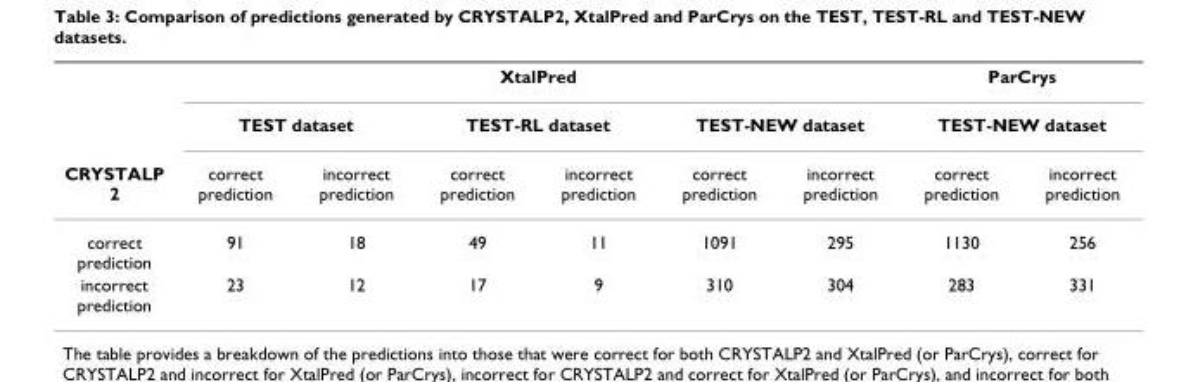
<table><thead><tr><td rowspan="3">CRYSTALP 2</td><td colspan="6">XtalPred</td><td rowspan="2" colspan="2">ParCrys TEST-NEW dataset</td></tr><tr><td colspan="2">TEST dataset</td><td colspan="2">TEST-RL dataset</td><td colspan="2">TEST-NEW dataset</td></tr><tr><td>correct prediction</td><td>incorrect prediction</td><td>correct prediction</td><td>incorrect prediction</td><td>correct prediction</td><td>incorrect prediction</td><td>correct prediction</td><td>incorrect prediction</td></tr></thead><tbody><tr><td>correct prediction</td><td>91</td><td>18</td><td>49</td><td>11</td><td>1091</td><td>295</td><td>1130</td><td>256</td></tr><tr><td>incorrect prediction</td><td>23</td><td>12</td><td>17</td><td>9</td><td>310</td><td>304</td><td>283</td><td>331</td></tr></tbody></table>